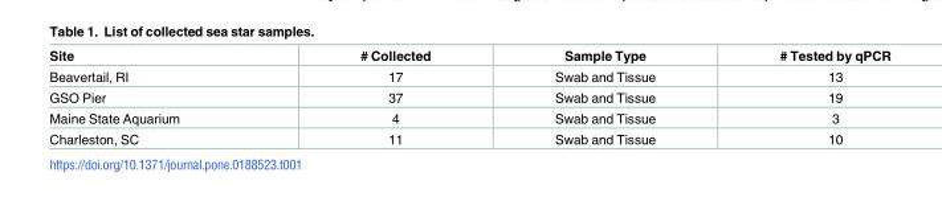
<table><thead><tr><td>Site</td><td># Collected</td><td>Sample Type</td><td># Tested by qPCR</td></tr></thead><tbody><tr><td>Beavertail, RI</td><td>17</td><td>Swab and Tissue</td><td>13</td></tr><tr><td>GSO Pier</td><td>37</td><td>Swab and Tissue</td><td>19</td></tr><tr><td>Maine State Aquarium</td><td>4</td><td>Swab and Tissue</td><td>3</td></tr><tr><td>Charleston, SC</td><td>11</td><td>Swab and Tissue</td><td>10</td></tr></tbody></table>